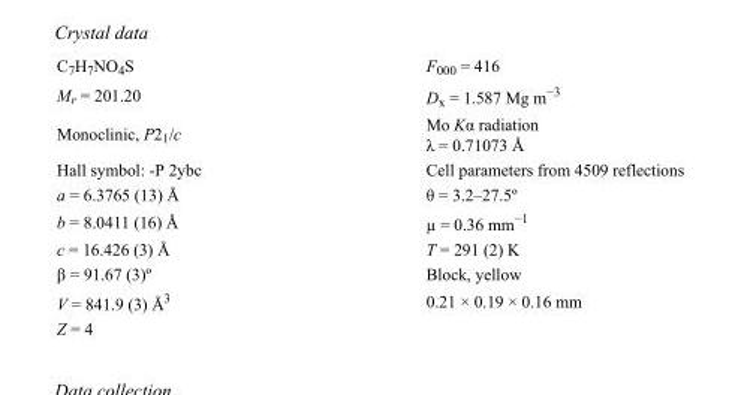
<table><tbody><tr><td>C<sub>7</sub>H<sub>7</sub>NO<sub>4</sub>S</td><td>F<sub>000</sub> = 416</td></tr><tr><td>M<sub>r</sub> = 201.20</td><td>D<sub>x</sub> = 1.587 Mg m<sup>−3</sup></td></tr><tr><td>Monoclinic, P2<sub>1</sub>/c</td><td>Mo Kα radiation λ = 0.71073 Å</td></tr><tr><td>Hall symbol: -P 2ybc</td><td>Cell parameters from 4509 reflections</td></tr><tr><td>a = 6.3765 (13) Å</td><td>θ = 3.2–27.5º</td></tr><tr><td>b = 8.0411 (16) Å</td><td>µ = 0.36 mm<sup>−1</sup></td></tr><tr><td>c = 16.426 (3) Å</td><td>T = 291 (2) K</td></tr><tr><td>β = 91.67 (3)º</td><td>Block, yellow</td></tr><tr><td>V = 841.9 (3) Å<sup>3</sup></td><td>0.21 × 0.19 × 0.16 mm</td></tr><tr><td>Z = 4</td><td></td></tr></tbody></table>